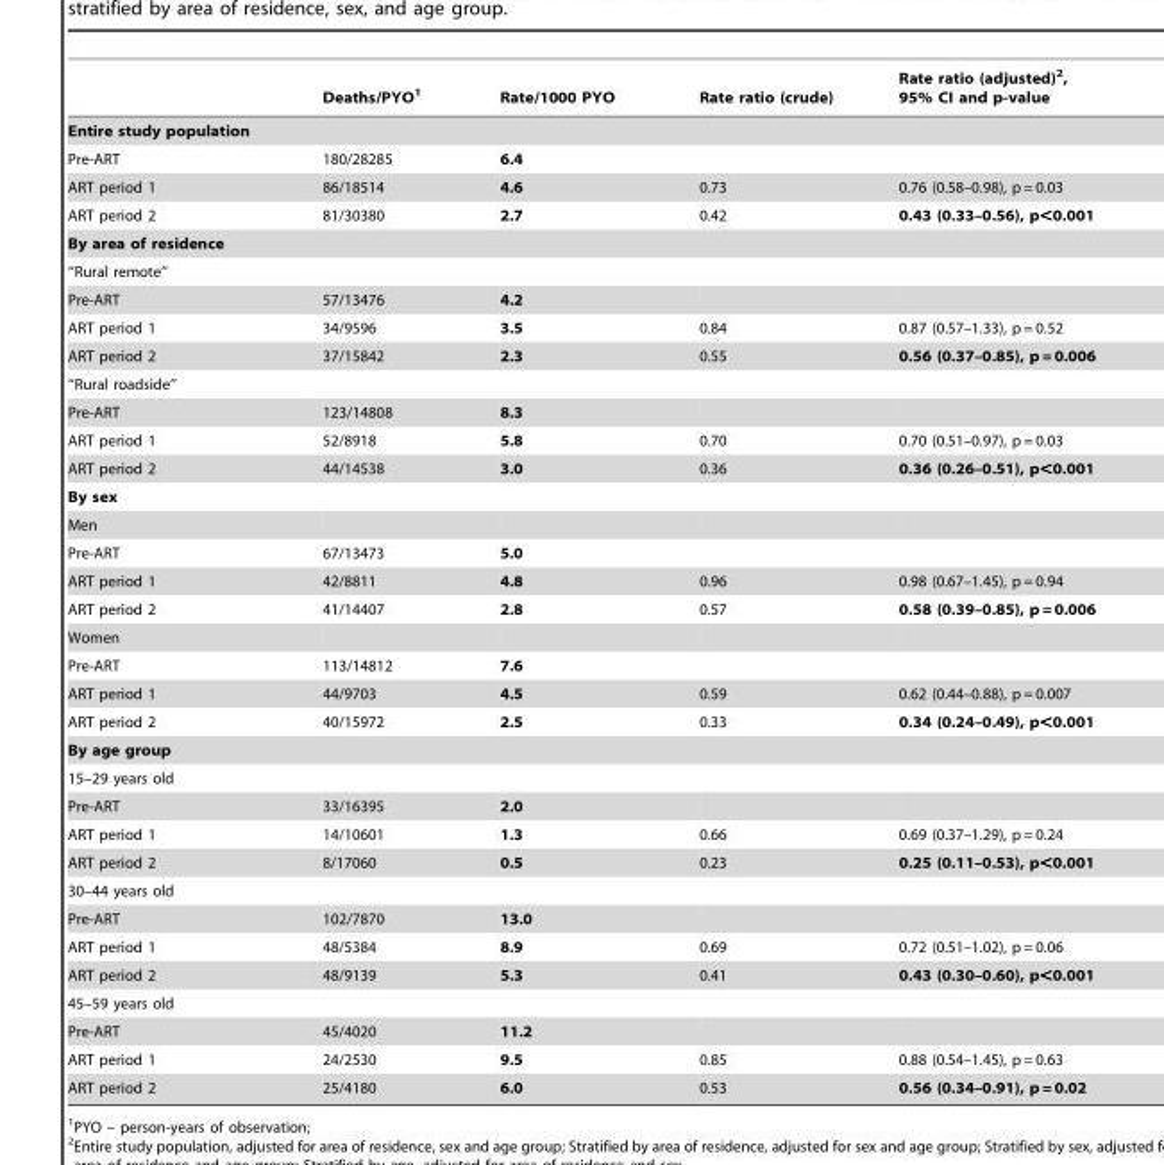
<table><thead><tr><td></td><td>Deaths/PYO<sup>1</sup></td><td>Rate/1000 PYO</td><td>Rate ratio (crude)</td><td>Rate ratio (adjusted)<sup>2</sup>, 95% CI and p-value</td></tr></thead><tbody><tr><td colspan="5">Entire study population</td></tr><tr><td>Pre-ART</td><td>180/28285</td><td>6.4</td><td></td><td></td></tr><tr><td>ART period 1</td><td>86/18514</td><td>4.6</td><td>0.73</td><td>0.76 (0.58–0.98), p = 0.03</td></tr><tr><td>ART period 2</td><td>81/30380</td><td>2.7</td><td>0.42</td><td>0.43 (0.33–0.56), p&lt;0.001</td></tr><tr><td colspan="5">By area of residence</td></tr><tr><td colspan="5">‘‘Rural remote’’</td></tr><tr><td>Pre-ART</td><td>57/13476</td><td>4.2</td><td></td><td></td></tr><tr><td>ART period 1</td><td>34/9596</td><td>3.5</td><td>0.84</td><td>0.87 (0.57–1.33), p = 0.52</td></tr><tr><td>ART period 2</td><td>37/15842</td><td>2.3</td><td>0.55</td><td>0.56 (0.37–0.85), p = 0.006</td></tr><tr><td colspan="5">‘‘Rural roadside’’</td></tr><tr><td>Pre-ART</td><td>123/14808</td><td>8.3</td><td></td><td></td></tr><tr><td>ART period 1</td><td>52/8918</td><td>5.8</td><td>0.70</td><td>0.70 (0.51–0.97), p = 0.03</td></tr><tr><td>ART period 2</td><td>44/14538</td><td>3.0</td><td>0.36</td><td>0.36 (0.26–0.51), p&lt;0.001</td></tr><tr><td colspan="5">By sex</td></tr><tr><td colspan="5">Men</td></tr><tr><td>Pre-ART</td><td>67/13473</td><td>5.0</td><td></td><td></td></tr><tr><td>ART period 1</td><td>42/8811</td><td>4.8</td><td>0.96</td><td>0.98 (0.67–1.45), p = 0.94</td></tr><tr><td>ART period 2</td><td>41/14407</td><td>2.8</td><td>0.57</td><td>0.58 (0.39–0.85), p = 0.006</td></tr><tr><td colspan="5">Women</td></tr><tr><td>Pre-ART</td><td>113/14812</td><td>7.6</td><td></td><td></td></tr><tr><td>ART period 1</td><td>44/9703</td><td>4.5</td><td>0.59</td><td>0.62 (0.44–0.88), p = 0.007</td></tr><tr><td>ART period 2</td><td>40/15972</td><td>2.5</td><td>0.33</td><td>0.34 (0.24–0.49), p&lt;0.001</td></tr><tr><td colspan="5">By age group</td></tr><tr><td colspan="5">15–29 years old</td></tr><tr><td>Pre-ART</td><td>33/16395</td><td>2.0</td><td></td><td></td></tr><tr><td>ART period 1</td><td>14/10601</td><td>1.3</td><td>0.66</td><td>0.69 (0.37–1.29), p = 0.24</td></tr><tr><td>ART period 2</td><td>8/17060</td><td>0.5</td><td>0.23</td><td>0.25 (0.11–0.53), p&lt;0.001</td></tr><tr><td colspan="5">30–44 years old</td></tr><tr><td>Pre-ART</td><td>102/7870</td><td>13.0</td><td></td><td></td></tr><tr><td>ART period 1</td><td>48/5384</td><td>8.9</td><td>0.69</td><td>0.72 (0.51–1.02), p = 0.06</td></tr><tr><td>ART period 2</td><td>48/9139</td><td>5.3</td><td>0.41</td><td>0.43 (0.30–0.60), p&lt;0.001</td></tr><tr><td colspan="5">45–59 years old</td></tr><tr><td>Pre-ART</td><td>45/4020</td><td>11.2</td><td></td><td></td></tr><tr><td>ART period 1</td><td>24/2530</td><td>9.5</td><td>0.85</td><td>0.88 (0.54–1.45), p = 0.63</td></tr><tr><td>ART period 2</td><td>25/4180</td><td>6.0</td><td>0.53</td><td>0.56 (0.34–0.91), p = 0.02</td></tr></tbody></table>